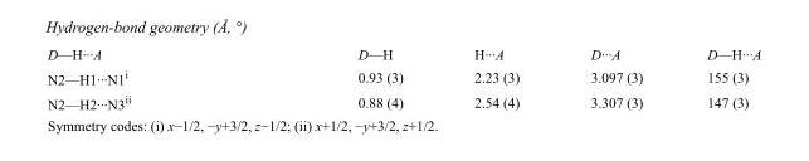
<table><tbody><tr><td>D—H···A</td><td>D—H</td><td>H···A</td><td>D···A</td><td>D—H···A</td></tr><tr><td>N2—H1···N1<sup>i</sup></td><td>0.93 (3)</td><td>2.23 (3)</td><td>3.097 (3)</td><td>155 (3)</td></tr><tr><td>N2—H2···N3<sup>ii</sup></td><td>0.88 (4)</td><td>2.54 (4)</td><td>3.307 (3)</td><td>147 (3)</td></tr></tbody></table>